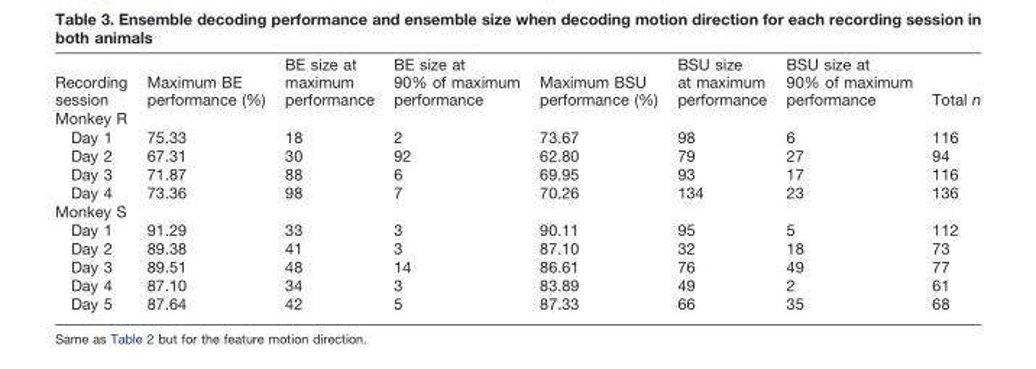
<table><thead><tr><td>Recording session</td><td>Maximum BE performance (%)</td><td>BE size at maximum performance</td><td>BE size at 90% of maximum performance</td><td>Maximum BSU performance (%)</td><td>BSU size at maximum performance</td><td>BSU size at 90% of maximum performance</td><td>Total n</td></tr></thead><tbody><tr><td colspan="8">Monkey R</td></tr><tr><td>Day 1</td><td>75.33</td><td>18</td><td>2</td><td>73.67</td><td>98</td><td>6</td><td>116</td></tr><tr><td>Day 2</td><td>67.31</td><td>30</td><td>92</td><td>62.80</td><td>79</td><td>27</td><td>94</td></tr><tr><td>Day 3</td><td>71.87</td><td>88</td><td>6</td><td>69.95</td><td>93</td><td>17</td><td>116</td></tr><tr><td>Day 4</td><td>73.36</td><td>98</td><td>7</td><td>70.26</td><td>134</td><td>23</td><td>136</td></tr><tr><td colspan="8">Monkey S</td></tr><tr><td>Day 1</td><td>91.29</td><td>33</td><td>3</td><td>90.11</td><td>95</td><td>5</td><td>112</td></tr><tr><td>Day 2</td><td>89.38</td><td>41</td><td>3</td><td>87.10</td><td>32</td><td>18</td><td>73</td></tr><tr><td>Day 3</td><td>89.51</td><td>48</td><td>14</td><td>86.61</td><td>76</td><td>49</td><td>77</td></tr><tr><td>Day 4</td><td>87.10</td><td>34</td><td>3</td><td>83.89</td><td>49</td><td>2</td><td>61</td></tr><tr><td>Day 5</td><td>87.64</td><td>42</td><td>5</td><td>87.33</td><td>66</td><td>35</td><td>68</td></tr></tbody></table>